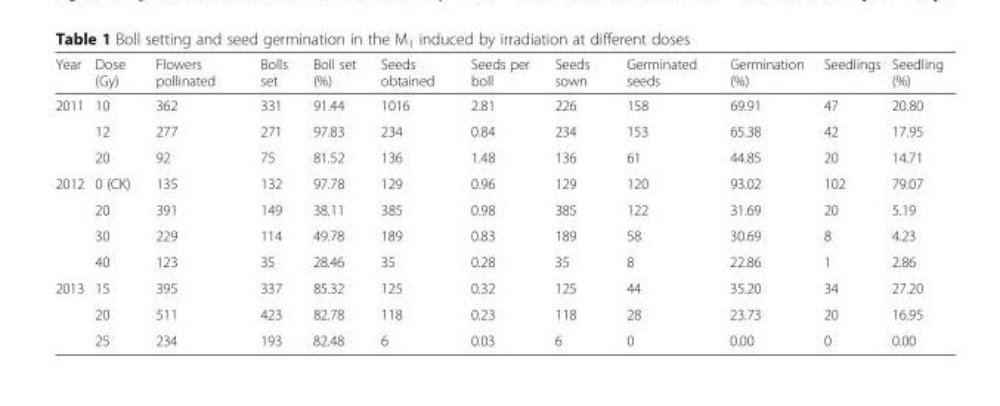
<table><thead><tr><td>Year</td><td>Dose (Gy)</td><td>Flowers pollinated</td><td>Bolls set</td><td>Boll set (%)</td><td>Seeds obtained</td><td>Seeds per boll</td><td>Seeds sown</td><td>Germinated seeds</td><td>Germination (%)</td><td>Seedlings</td><td>Seedling (%)</td></tr></thead><tbody><tr><td rowspan="3">2011</td><td>10</td><td>362</td><td>331</td><td>91.44</td><td>1016</td><td>2.81</td><td>226</td><td>158</td><td>69.91</td><td>47</td><td>20.80</td></tr><tr><td>12</td><td>277</td><td>271</td><td>97.83</td><td>234</td><td>0.84</td><td>234</td><td>153</td><td>65.38</td><td>42</td><td>17.95</td></tr><tr><td>20</td><td>92</td><td>75</td><td>81.52</td><td>136</td><td>1.48</td><td>136</td><td>61</td><td>44.85</td><td>20</td><td>14.71</td></tr><tr><td rowspan="4">2012</td><td>0 (CK)</td><td>135</td><td>132</td><td>97.78</td><td>129</td><td>0.96</td><td>129</td><td>120</td><td>93.02</td><td>102</td><td>79.07</td></tr><tr><td>20</td><td>391</td><td>149</td><td>38.11</td><td>385</td><td>0.98</td><td>385</td><td>122</td><td>31.69</td><td>20</td><td>5.19</td></tr><tr><td>30</td><td>229</td><td>114</td><td>49.78</td><td>189</td><td>0.83</td><td>189</td><td>58</td><td>30.69</td><td>8</td><td>4.23</td></tr><tr><td>40</td><td>123</td><td>35</td><td>28.46</td><td>35</td><td>0.28</td><td>35</td><td>8</td><td>22.86</td><td>1</td><td>2.86</td></tr><tr><td rowspan="3">2013</td><td>15</td><td>395</td><td>337</td><td>85.32</td><td>125</td><td>0.32</td><td>125</td><td>44</td><td>35.20</td><td>34</td><td>27.20</td></tr><tr><td>20</td><td>511</td><td>423</td><td>82.78</td><td>118</td><td>0.23</td><td>118</td><td>28</td><td>23.73</td><td>20</td><td>16.95</td></tr><tr><td>25</td><td>234</td><td>193</td><td>82.48</td><td>6</td><td>0.03</td><td>6</td><td>0</td><td>0.00</td><td>0</td><td>0.00</td></tr></tbody></table>